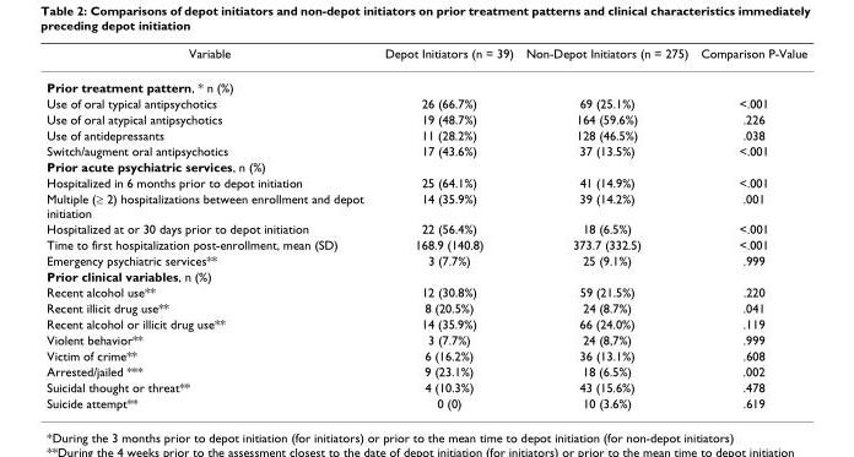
<table><thead><tr><td>Variable</td><td>Depot Initiators (n = 39)</td><td>Non-Depot Initiators (n = 275)</td><td>Comparison P-Value</td></tr></thead><tbody><tr><td colspan="4">Prior treatment pattern, * n (%)</td></tr><tr><td>Use of oral typical antipsychotics</td><td>26 (66.7%)</td><td>69 (25.1%)</td><td>&lt;.001</td></tr><tr><td>Use of oral atypical antipsychotics</td><td>19 (48.7%)</td><td>164 (59.6%)</td><td>.226</td></tr><tr><td>Use of antidepressants</td><td>11 (28.2%)</td><td>128 (46.5%)</td><td>.038</td></tr><tr><td>Switch/augment oral antipsychotics</td><td>17 (43.6%)</td><td>37 (13.5%)</td><td>&lt;.001</td></tr><tr><td colspan="4">Prior acute psychiatric services, n (%)</td></tr><tr><td>Hospitalized in 6 months prior to depot initiation</td><td>25 (64.1%)</td><td>41 (14.9%)</td><td>&lt;.001</td></tr><tr><td>Multiple (≥ 2) hospitalizations between enrollment and depot initiation</td><td>14 (35.9%)</td><td>39 (14.2%)</td><td>.001</td></tr><tr><td>Hospitalized at or 30 days prior to depot initiation</td><td>22 (56.4%)</td><td>18 (6.5%)</td><td>&lt;.001</td></tr><tr><td>Time to first hospitalization post-enrollment, mean (SD)</td><td>168.9 (140.8)</td><td>373.7 (332.5)</td><td>&lt;.001</td></tr><tr><td>Emergency psychiatric services**</td><td>3 (7.7%)</td><td>25 (9.1%)</td><td>.999</td></tr><tr><td colspan="4">Prior clinical variables, n (%)</td></tr><tr><td>Recent alcohol use**</td><td>12 (30.8%)</td><td>59 (21.5%)</td><td>.220</td></tr><tr><td>Recent illicit drug use**</td><td>8 (20.5%)</td><td>24 (8.7%)</td><td>.041</td></tr><tr><td>Recent alcohol or illicit drug use**</td><td>14 (35.9%)</td><td>66 (24.0%)</td><td>.119</td></tr><tr><td>Violent behavior**</td><td>3 (7.7%)</td><td>24 (8,7%)</td><td>.999</td></tr><tr><td>Victim of crime**</td><td>6 (16.2%)</td><td>36 (13.1%)</td><td>.608</td></tr><tr><td>Arrested/jailed ***</td><td>9 (23.1%)</td><td>18 (6.5%)</td><td>.002</td></tr><tr><td>Suicidal thought or threat**</td><td>4 (10.3%)</td><td>43 (15.6%)</td><td>.478</td></tr><tr><td>Suicide attempt**</td><td>0 (0)</td><td>10 (3.6%)</td><td>.619</td></tr></tbody></table>